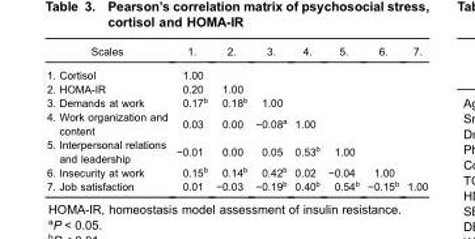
<table><thead><tr><td>Scales</td><td>1.</td><td>2.</td><td>3.</td><td>4.</td><td>5.</td><td>6.</td><td>7.</td></tr></thead><tbody><tr><td>1. Cortisol</td><td>1.00</td><td></td><td></td><td></td><td></td><td></td><td></td></tr><tr><td>2. HOMA-IR</td><td>0.20</td><td>1.00</td><td></td><td></td><td></td><td></td><td></td></tr><tr><td>3. Demands at work</td><td>0.17<sup>b</sup></td><td>0.18<sup>b</sup></td><td>1.00</td><td></td><td></td><td></td><td></td></tr><tr><td>4. Work organization and content</td><td>0.03</td><td>0.00</td><td>−0.08<sup>a</sup></td><td>1.00</td><td></td><td></td><td></td></tr><tr><td>5. Interpersonal relations and leadership</td><td>−0.01</td><td>0.00</td><td>0.05</td><td>0.53<sup>b</sup></td><td>1.00</td><td></td><td></td></tr><tr><td>6. Insecurity at work</td><td>0.15<sup>b</sup></td><td>0.14<sup>b</sup></td><td>0.42<sup>b</sup></td><td>0.02</td><td>−0.04</td><td>1.00</td><td></td></tr><tr><td>7. Job satisfaction</td><td>0.01</td><td>−0.03</td><td>−0.19<sup>b</sup></td><td>0.40<sup>b</sup></td><td>0.54<sup>b</sup></td><td>−0.15<sup>b</sup></td><td>1.00</td></tr></tbody></table>